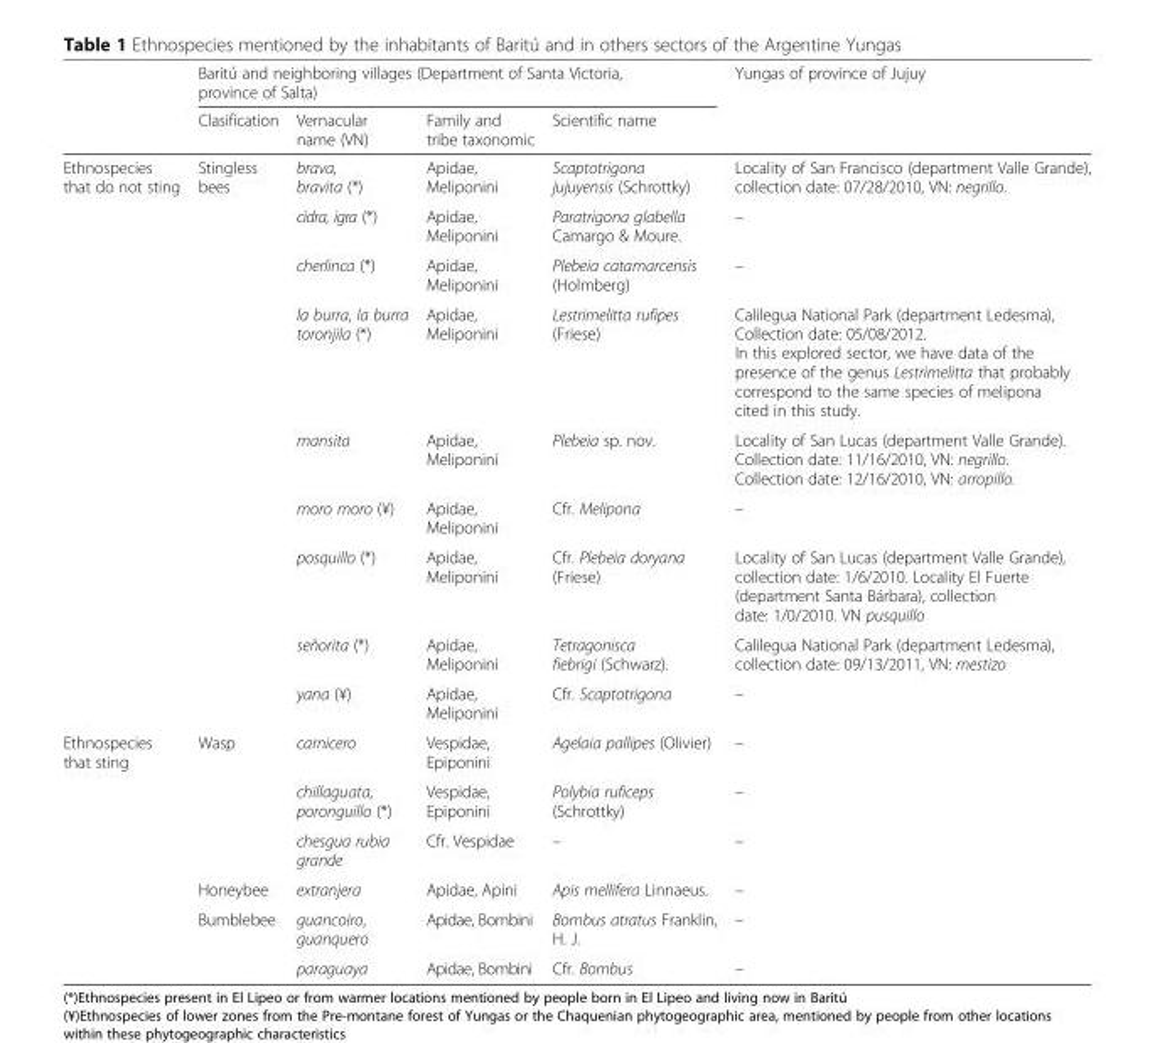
<table><thead><tr><td rowspan="2"></td><td colspan="4">Baritú and neighboring villages (Department of Santa Victoria, province of Salta)</td><td rowspan="2">Yungas of province of Jujuy</td></tr><tr><td>Clasification</td><td>Vernacular name (VN)</td><td>Family and tribe taxonomic</td><td>Scientific name</td></tr></thead><tbody><tr><td rowspan="9">Ethnospecies that do not sting</td><td rowspan="9">Stingless bees</td><td>brava, bravita (*)</td><td>Apidae, Meliponini</td><td>Scaptotrigona jujuyensis (Schrottky)</td><td>Locality of San Francisco (department Valle Grande), collection date: 07/28/2010, VN: negrillo.</td></tr><tr><td>cidra, igra (*)</td><td>Apidae, Meliponini</td><td>Paratrigona glabella Camargo &amp; Moure.</td><td>–</td></tr><tr><td>cherlinca (*)</td><td>Apidae, Meliponini</td><td>Plebeia catamarcensis (Holmberg)</td><td>–</td></tr><tr><td>la burra, la burra toronjila (*)</td><td>Apidae, Meliponini</td><td>Lestrimelitta rufipes (Friese)</td><td>Calilegua National Park (department Ledesma), Collection date: 05/08/2012. In this explored sector, we have data of the presence of the genus Lestrimelitta that probably correspond to the same species of melipona cited in this study.</td></tr><tr><td>mansita</td><td>Apidae, Meliponini</td><td>Plebeia sp. nov.</td><td>Locality of San Lucas (department Valle Grande). Collection date: 11/16/2010, VN: negrillo. Collection date: 12/16/2010, VN: arropillo.</td></tr><tr><td>moro moro (¥)</td><td>Apidae, Meliponini</td><td>Cfr. Melipona</td><td>–</td></tr><tr><td>posquillo (*)</td><td>Apidae, Meliponini</td><td>Cfr. Plebeia doryana (Friese)</td><td>Locality of San Lucas (department Valle Grande), collection date: 1/6/2010. Locality El Fuerte (department Santa Bárbara), collection date: 1/0/2010. VN pusquillo</td></tr><tr><td>señorita (*)</td><td>Apidae, Meliponini</td><td>Tetragonisca fiebrigi (Schwarz).</td><td>Calilegua National Park (department Ledesma), collection date: 09/13/2011, VN: mestizo</td></tr><tr><td>yana (¥)</td><td>Apidae, Meliponini</td><td>Cfr. Scaptotrigona</td><td>–</td></tr><tr><td rowspan="6">Ethnospecies that sting</td><td rowspan="3">Wasp</td><td>carnicero</td><td>Vespidae, Epiponini</td><td>Agelaia pallipes (Olivier)</td><td>–</td></tr><tr><td>chillaguata, poronguillo (*)</td><td>Vespidae, Epiponini</td><td>Polybia ruficeps (Schrottky)</td><td>–</td></tr><tr><td>chesgua rubia grande</td><td>Cfr. Vespidae</td><td>–</td><td>–</td></tr><tr><td>Honeybee</td><td>extranjera</td><td>Apidae, Apini</td><td>Apis mellifera Linnaeus.</td><td>–</td></tr><tr><td rowspan="2">Bumblebee</td><td>guancoiro, guanquero</td><td>Apidae, Bombini</td><td>Bombus atratus Franklin, H. J.</td><td>–</td></tr><tr><td>paraguaya</td><td>Apidae, Bombini</td><td>Cfr. Bombus</td><td>–</td></tr></tbody></table>